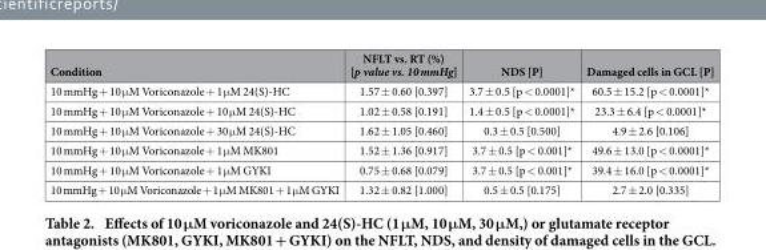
<table><thead><tr><td>Condition</td><td>NFLT vs. RT (%) [p value vs. 10 mmHg]</td><td>NDS [P]</td><td>Damaged cells in GCL [P]</td></tr></thead><tbody><tr><td>10 mmHg + 10 μ M Voriconazole + 1 μ M 24(S)-HC</td><td>1.57 ± 0.60 [0.397]</td><td>3.7 ± 0.5 [p &lt; 0.0001]*</td><td>60.5 ± 15.2 [p &lt; 0.0001]*</td></tr><tr><td>10 mmHg + 10 μ M Voriconazole + 10 μ M 24(S)-HC</td><td>1.02 ± 0.58 [0.191]</td><td>1.4 ± 0.5 [p &lt; 0.0001]*</td><td>23.3 ± 6.4 [p &lt; 0.0001]*</td></tr><tr><td>10 mmHg + 10 μ M Voriconazole + 30 μ M 24(S)-HC</td><td>1.62 ± 1.05 [0.460]</td><td>0.3 ± 0.5 [0.500]</td><td>4.9 ± 2.6 [0.106]</td></tr><tr><td>10 mmHg + 10 μ M Voriconazole + 1 μ M MK801</td><td>1.52 ± 1.36 [0.917]</td><td>3.7 ± 0.5 [p &lt; 0.001]*</td><td>49.6 ± 13.0 [p &lt; 0.0001]*</td></tr><tr><td>10 mmHg + 10 μ M Voriconazole + 1 μ M GYKI</td><td>0.75 ± 0.68 [0.079]</td><td>3.7 ± 0.5 [p &lt; 0.001]*</td><td>39.4 ± 16.0 [p &lt; 0.0001]*</td></tr><tr><td>10 mmHg + 10 μ M Voriconazole + 1 μ M MK801 + 1 μ M GYKI</td><td>1.32 ± 0.82 [1.000]</td><td>0.5 ± 0.5 [0.175]</td><td>2.7 ± 2.0 [0.335]</td></tr></tbody></table>